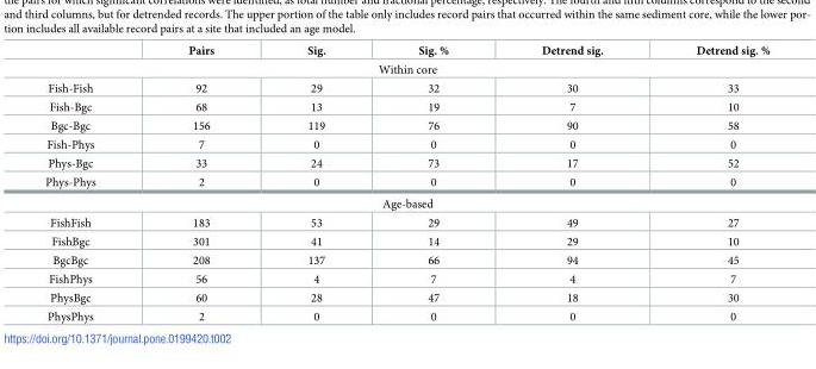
<table><thead><tr><td></td><td>Pairs</td><td>Sig.</td><td>Sig. %</td><td>Detrend sig.</td><td>Detrend sig. %</td></tr></thead><tbody><tr><td colspan="6">Within core</td></tr><tr><td>Fish-Fish</td><td>92</td><td>29</td><td>32</td><td>30</td><td>33</td></tr><tr><td>Fish-Bgc</td><td>68</td><td>13</td><td>19</td><td>7</td><td>10</td></tr><tr><td>Bgc-Bgc</td><td>156</td><td>119</td><td>76</td><td>90</td><td>58</td></tr><tr><td>Fish-Phys</td><td>7</td><td>0</td><td>0</td><td>0</td><td>0</td></tr><tr><td>Phys-Bgc</td><td>33</td><td>24</td><td>73</td><td>17</td><td>52</td></tr><tr><td>Phys-Phys</td><td>2</td><td>0</td><td>0</td><td>0</td><td>0</td></tr><tr><td colspan="6">Age-based</td></tr><tr><td>FishFish</td><td>183</td><td>53</td><td>29</td><td>49</td><td>27</td></tr><tr><td>FishBgc</td><td>301</td><td>41</td><td>14</td><td>29</td><td>10</td></tr><tr><td>BgcBgc</td><td>208</td><td>137</td><td>66</td><td>94</td><td>45</td></tr><tr><td>FishPhys</td><td>56</td><td>4</td><td>7</td><td>4</td><td>7</td></tr><tr><td>PhysBgc</td><td>60</td><td>28</td><td>47</td><td>18</td><td>30</td></tr><tr><td>PhysPhys</td><td>2</td><td>0</td><td>0</td><td>0</td><td>0</td></tr></tbody></table>